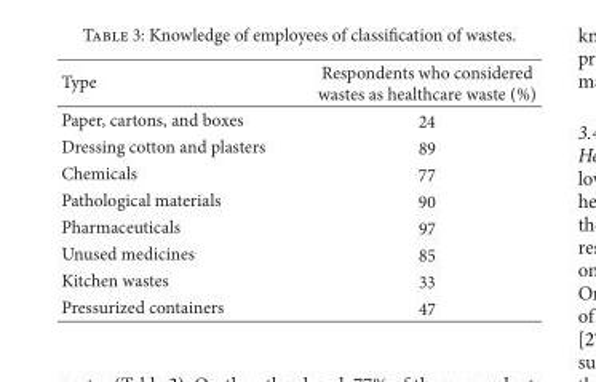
<table><thead><tr><td>Type</td><td>Respondents who considered wastes as healthcare waste (%)</td></tr></thead><tbody><tr><td>Paper, cartons, and boxes</td><td>24</td></tr><tr><td>Dressing cotton and plasters</td><td>89</td></tr><tr><td>Chemicals</td><td>77</td></tr><tr><td>Pathological materials</td><td>90</td></tr><tr><td>Pharmaceuticals</td><td>97</td></tr><tr><td>Unused medicines</td><td>85</td></tr><tr><td>Kitchen wastes</td><td>33</td></tr><tr><td>Pressurized containers</td><td>47</td></tr></tbody></table>